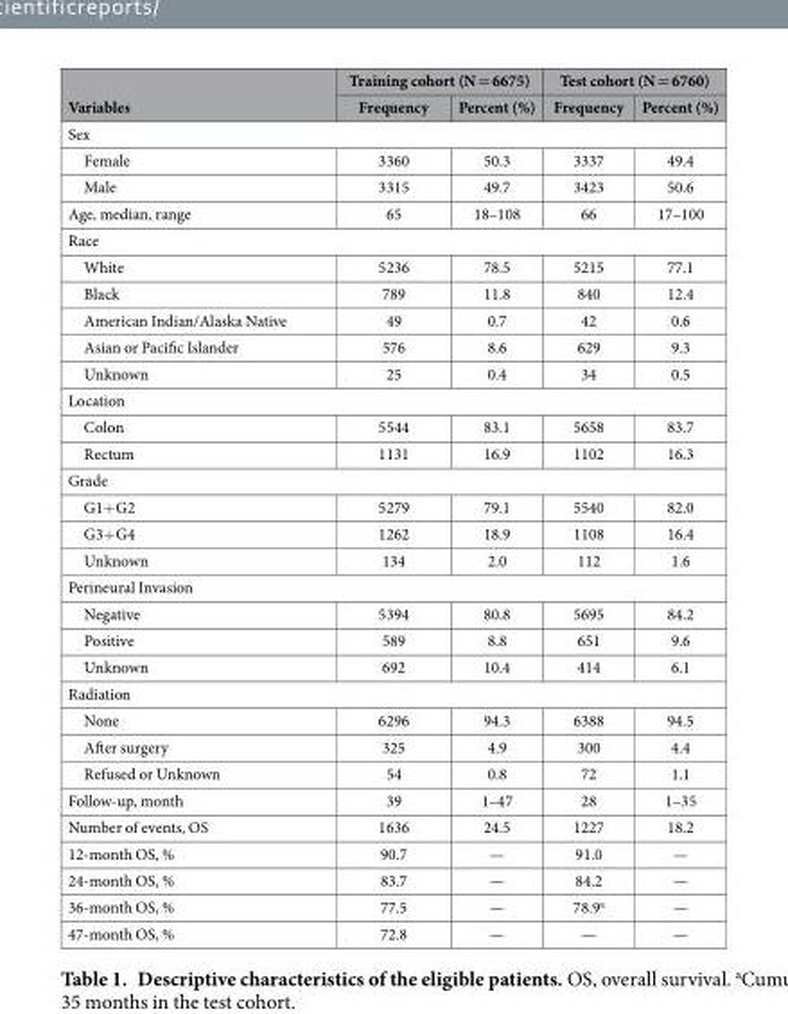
<table><thead><tr><td rowspan="2">Variables</td><td colspan="2">Training cohort (N = 6675)</td><td colspan="2">Test cohort (N = 6760)</td></tr><tr><td>Frequency</td><td>Percent (%)</td><td>Frequency</td><td>Percent (%)</td></tr></thead><tbody><tr><td colspan="5">Sex</td></tr><tr><td>Female</td><td>3360</td><td>50.3</td><td>3337</td><td>49.4</td></tr><tr><td>Male</td><td>3315</td><td>49.7</td><td>3423</td><td>50.6</td></tr><tr><td>Age, median, range</td><td>65</td><td>18–108</td><td>66</td><td>17–100</td></tr><tr><td colspan="5">Race</td></tr><tr><td>White</td><td>5236</td><td>78.5</td><td>5215</td><td>77.1</td></tr><tr><td>Black</td><td>789</td><td>11.8</td><td>840</td><td>12.4</td></tr><tr><td>American Indian/Alaska Native</td><td>49</td><td>0.7</td><td>42</td><td>0.6</td></tr><tr><td>Asian or Pacific Islander</td><td>576</td><td>8.6</td><td>629</td><td>9.3</td></tr><tr><td>Unknown</td><td>25</td><td>0.4</td><td>34</td><td>0.5</td></tr><tr><td colspan="5">Location</td></tr><tr><td>Colon</td><td>5544</td><td>83.1</td><td>5658</td><td>83.7</td></tr><tr><td>Rectum</td><td>1131</td><td>16.9</td><td>1102</td><td>16.3</td></tr><tr><td colspan="5">Grade</td></tr><tr><td>G1+ G2</td><td>5279</td><td>79.1</td><td>5540</td><td>82.0</td></tr><tr><td>G3+ G4</td><td>1262</td><td>18.9</td><td>1108</td><td>16.4</td></tr><tr><td>Unknown</td><td>134</td><td>2.0</td><td>112</td><td>1.6</td></tr><tr><td colspan="5">Perineural Invasion</td></tr><tr><td>Negative</td><td>5394</td><td>80.8</td><td>5695</td><td>84.2</td></tr><tr><td>Positive</td><td>589</td><td>8.8</td><td>651</td><td>9.6</td></tr><tr><td>Unknown</td><td>692</td><td>10.4</td><td>414</td><td>6.1</td></tr><tr><td colspan="5">Radiation</td></tr><tr><td>None</td><td>6296</td><td>94.3</td><td>6388</td><td>94.5</td></tr><tr><td>After surgery</td><td>325</td><td>4.9</td><td>300</td><td>4.4</td></tr><tr><td>Refused or Unknown</td><td>54</td><td>0.8</td><td>72</td><td>1.1</td></tr><tr><td>Follow-up, month</td><td>39</td><td>1–47</td><td>28</td><td>1–35</td></tr><tr><td>Number of events, OS</td><td>1636</td><td>24.5</td><td>1227</td><td>18.2</td></tr><tr><td>12-month OS, %</td><td>90.7</td><td>—</td><td>91.0</td><td>—</td></tr><tr><td>24-month OS, %</td><td>83.7</td><td>—</td><td>84.2</td><td>—</td></tr><tr><td>36-month OS, %</td><td>77.5</td><td>—</td><td>78.9<sup>a</sup></td><td>—</td></tr><tr><td>47-month OS, %</td><td>72.8</td><td>—</td><td>—</td><td>—</td></tr></tbody></table>